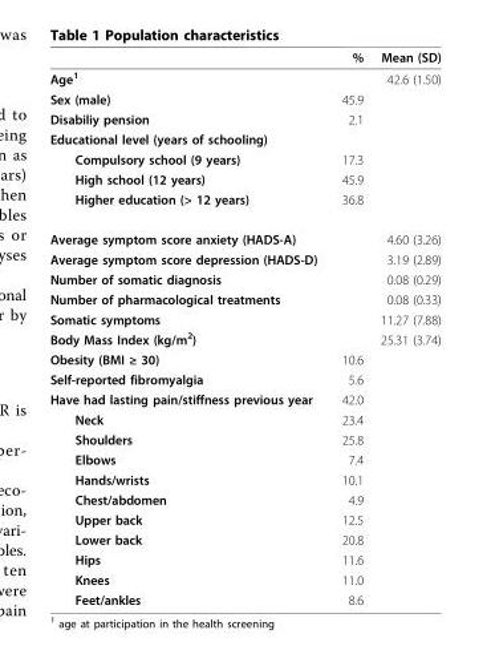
<table><thead><tr><td></td><td>%</td><td>Mean (SD)</td></tr></thead><tbody><tr><td>Age<sup>1</sup></td><td></td><td>42.6 (1.50)</td></tr><tr><td>Sex (male)</td><td>45.9</td><td></td></tr><tr><td>Disabiliy pension</td><td>2.1</td><td></td></tr><tr><td colspan="3">Educational level (years of schooling)</td></tr><tr><td>Compulsory school (9 years)</td><td>17.3</td><td></td></tr><tr><td>High school (12 years)</td><td>45.9</td><td></td></tr><tr><td>Higher education (&gt; 12 years)</td><td>36.8</td><td></td></tr><tr><td>Average symptom score anxiety (HADS-A)</td><td></td><td>4.60 (3.26)</td></tr><tr><td>Average symptom score depression (HADS-D)</td><td></td><td>3.19 (2.89)</td></tr><tr><td>Number of somatic diagnosis</td><td></td><td>0.08 (0.29)</td></tr><tr><td>Number of pharmacological treatments</td><td></td><td>0.08 (0.33)</td></tr><tr><td>Somatic symptoms</td><td></td><td>11.27 (7.88)</td></tr><tr><td>Body Mass Index (kg/m<sup>2</sup>)</td><td></td><td>25.31 (3.74)</td></tr><tr><td>Obesity (BMI ≥ 30)</td><td>10.6</td><td></td></tr><tr><td>Self-reported fibromyalgia</td><td>5.6</td><td></td></tr><tr><td>Have had lasting pain/stiffness previous year</td><td>42.0</td><td></td></tr><tr><td>Neck</td><td>23.4</td><td></td></tr><tr><td>Shoulders</td><td>25.8</td><td></td></tr><tr><td>Elbows</td><td>7.4</td><td></td></tr><tr><td>Hands/wrists</td><td>10.1</td><td></td></tr><tr><td>Chest/abdomen</td><td>4.9</td><td></td></tr><tr><td>Upper back</td><td>12.5</td><td></td></tr><tr><td>Lower back</td><td>20.8</td><td></td></tr><tr><td>Hips</td><td>11.6</td><td></td></tr><tr><td>Knees</td><td>11.0</td><td></td></tr><tr><td>Feet/ankles</td><td>8.6</td><td></td></tr></tbody></table>